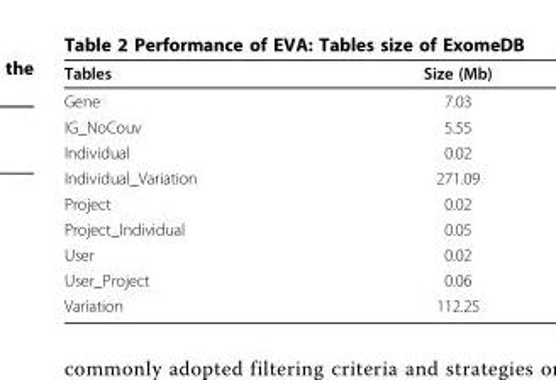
<table><thead><tr><td>Tables</td><td>Size (Mb)</td></tr></thead><tbody><tr><td>Gene</td><td>7.03</td></tr><tr><td>IG_NoCouv</td><td>5.55</td></tr><tr><td>Individual</td><td>0.02</td></tr><tr><td>Individual_Variation</td><td>271.09</td></tr><tr><td>Project</td><td>0.02</td></tr><tr><td>Project_Individual</td><td>0.05</td></tr><tr><td>User</td><td>0.02</td></tr><tr><td>User_Project</td><td>0.06</td></tr><tr><td>Variation</td><td>112.25</td></tr></tbody></table>